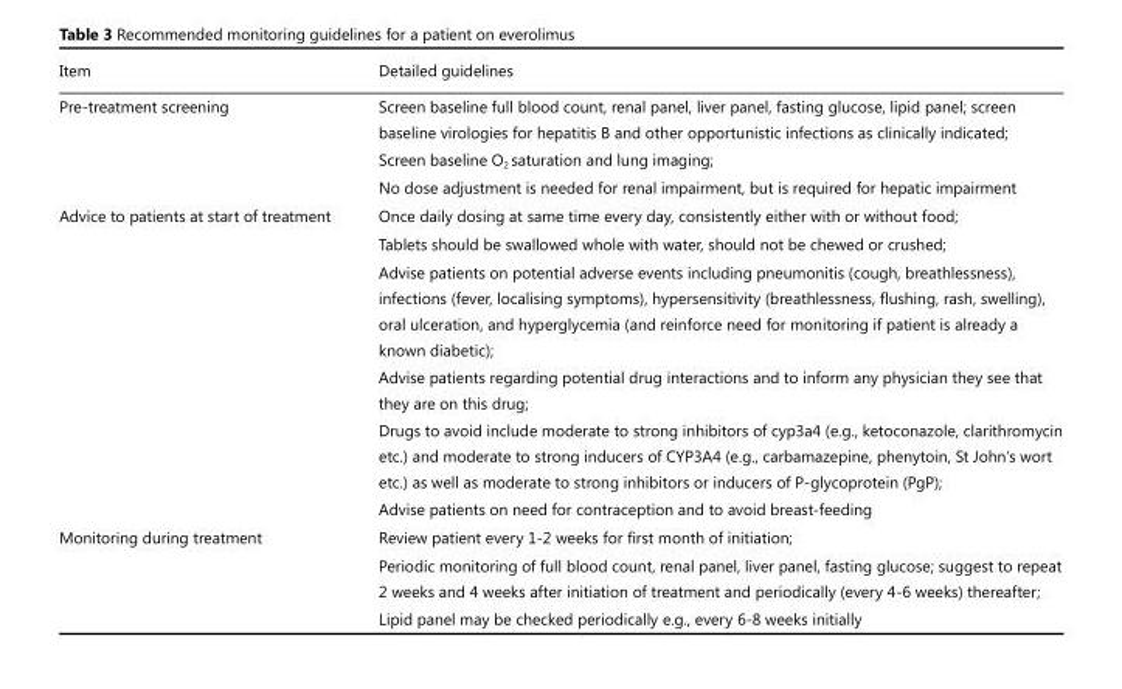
<table><thead><tr><td>Item</td><td>Detailed guidelines</td></tr></thead><tbody><tr><td rowspan="3">Pre-treatment screening</td><td>Screen baseline full blood count, renal panel, liver panel, fasting glucose, lipid panel; screen baseline virologies for hepatitis B and other opportunistic infections as clinically indicated;</td></tr><tr><td>Screen baseline O<sub>2</sub> saturation and lung imaging;</td></tr><tr><td>No dose adjustment is needed for renal impairment, but is required for hepatic impairment</td></tr><tr><td rowspan="6">Advice to patients at start of treatment</td><td>Once daily dosing at same time every day, consistently either with or without food;</td></tr><tr><td>Tablets should be swallowed whole with water, should not be chewed or crushed;</td></tr><tr><td>Advise patients on potential adverse events including pneumonitis (cough, breathlessness), infections (fever, localising symptoms), hypersensitivity (breathlessness, flushing, rash, swelling), oral ulceration, and hyperglycemia (and reinforce need for monitoring if patient is already a known diabetic);</td></tr><tr><td>Advise patients regarding potential drug interactions and to inform any physician they see that they are on this drug;</td></tr><tr><td>Drugs to avoid include moderate to strong inhibitors of cyp3a4 (e.g., ketoconazole, clarithromycin etc.) and moderate to strong inducers of CYP3A4 (e.g., carbamazepine, phenytoin, St John’s wort etc.) as well as moderate to strong inhibitors or inducers of P-glycoprotein (PgP);</td></tr><tr><td>Advise patients on need for contraception and to avoid breast-feeding</td></tr><tr><td rowspan="3">Monitoring during treatment</td><td>Review patient every 1-2 weeks for first month of initiation;</td></tr><tr><td>Periodic monitoring of full blood count, renal panel, liver panel, fasting glucose; suggest to repeat 2 weeks and 4 weeks after initiation of treatment and periodically (every 4-6 weeks) thereafter;</td></tr><tr><td>Lipid panel may be checked periodically e.g., every 6-8 weeks initially</td></tr></tbody></table>